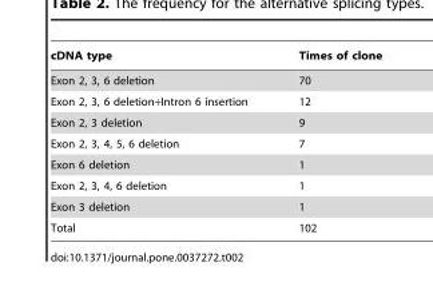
<table><thead><tr><td>cDNA type</td><td>Times of clone</td></tr></thead><tbody><tr><td>Exon 2, 3, 6 deletion</td><td>70</td></tr><tr><td>Exon 2, 3, 6 deletion+Intron 6 insertion</td><td>12</td></tr><tr><td>Exon 2, 3 deletion</td><td>9</td></tr><tr><td>Exon 2, 3, 4, 5, 6 deletion</td><td>7</td></tr><tr><td>Exon 6 deletion</td><td>1</td></tr><tr><td>Exon 2, 3, 4, 6 deletion</td><td>1</td></tr><tr><td>Exon 3 deletion</td><td>1</td></tr><tr><td>Total</td><td>102</td></tr></tbody></table>